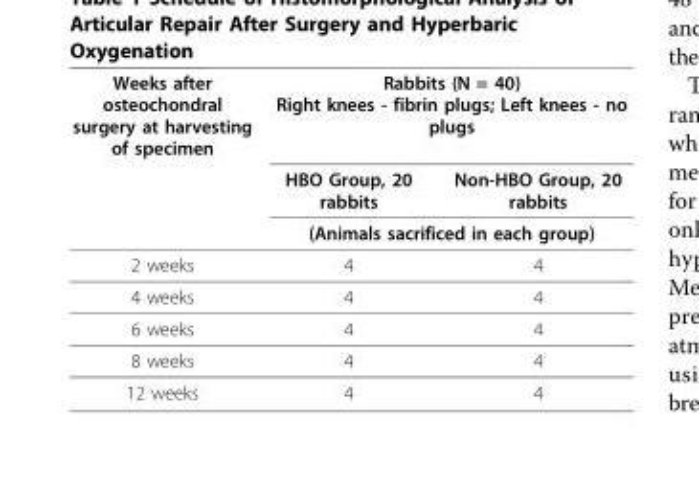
<table><thead><tr><td rowspan="3">Weeks after osteochondral surgery at harvesting of specimen</td><td colspan="2">Rabbits (N = 40) Right knees - fibrin plugs; Left knees - no plugs</td></tr><tr><td>HBO Group, 20 rabbits</td><td>Non-HBO Group, 20 rabbits</td></tr><tr><td colspan="2">(Animals sacrificed in each group)</td></tr></thead><tbody><tr><td>2 weeks</td><td>4</td><td>4</td></tr><tr><td>4 weeks</td><td>4</td><td>4</td></tr><tr><td>6 weeks</td><td>4</td><td>4</td></tr><tr><td>8 weeks</td><td>4</td><td>4</td></tr><tr><td>12 weeks</td><td>4</td><td>4</td></tr></tbody></table>